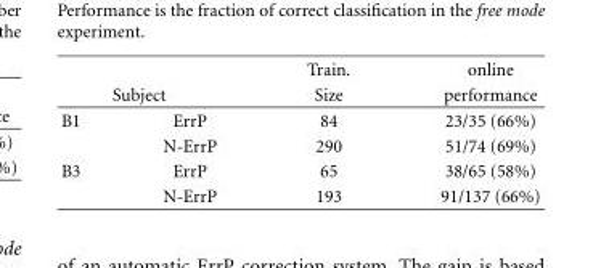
<table><thead><tr><td></td><td></td><td rowspan="2">Train. Size</td><td rowspan="2">online performance</td></tr><tr><td colspan="2">Subject</td></tr></thead><tbody><tr><td rowspan="2">B1</td><td>ErrP</td><td>84</td><td>23/35 (66%)</td></tr><tr><td>N-ErrP</td><td>290</td><td>51/74 (69%)</td></tr><tr><td rowspan="2">B3</td><td>ErrP</td><td>65</td><td>38/65 (58%)</td></tr><tr><td>N-ErrP</td><td>193</td><td>91/137 (66%)</td></tr></tbody></table>